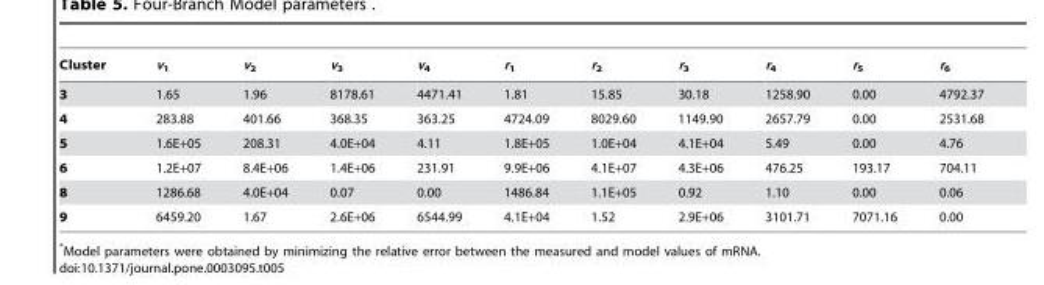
<table><thead><tr><td>Cluster</td><td>v<sub>1</sub></td><td>v<sub>2</sub></td><td>v<sub>3</sub></td><td>v<sub>4</sub></td><td>r<sub>1</sub></td><td>r<sub>2</sub></td><td>r<sub>3</sub></td><td>r<sub>4</sub></td><td>r<sub>5</sub></td><td>r<sub>6</sub></td></tr></thead><tbody><tr><td>3</td><td>1.65</td><td>1.96</td><td>8178.61</td><td>4471.41</td><td>1.81</td><td>15.85</td><td>30.18</td><td>1258.90</td><td>0.00</td><td>4792.37</td></tr><tr><td>4</td><td>283.88</td><td>401.66</td><td>368.35</td><td>363.25</td><td>4724.09</td><td>8029.60</td><td>1149.90</td><td>2657.79</td><td>0.00</td><td>2531.68</td></tr><tr><td>5</td><td>1.6E+05</td><td>208.31</td><td>4.0E+04</td><td>4.11</td><td>1.8E+05</td><td>1.0E+04</td><td>4.1E+04</td><td>5.49</td><td>0.00</td><td>4.76</td></tr><tr><td>6</td><td>1.2E+07</td><td>8.4E+06</td><td>1.4E+06</td><td>231.91</td><td>9.9E+06</td><td>4.1E+07</td><td>4.3E+06</td><td>476.25</td><td>193.17</td><td>704.11</td></tr><tr><td>8</td><td>1286.68</td><td>4.0E+04</td><td>0.07</td><td>0.00</td><td>1486.84</td><td>1.1E+05</td><td>0.92</td><td>1.10</td><td>0.00</td><td>0.06</td></tr><tr><td>9</td><td>6459.20</td><td>1.67</td><td>2.6E+06</td><td>6544.99</td><td>4.1E+04</td><td>1.52</td><td>2.9E+06</td><td>3101.71</td><td>7071.16</td><td>0.00</td></tr></tbody></table>